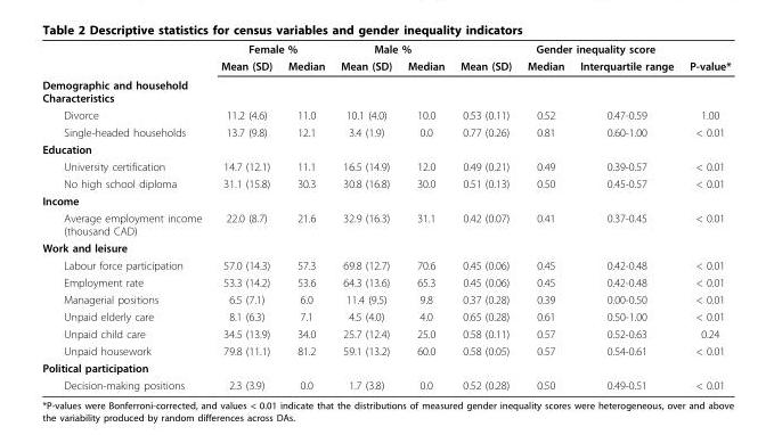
<table><thead><tr><td rowspan="2"></td><td colspan="2">Female %</td><td colspan="2">Male %</td><td colspan="4">Gender inequality score</td></tr><tr><td>Mean (SD)</td><td>Median</td><td>Mean (SD)</td><td>Median</td><td>Mean (SD)</td><td>Median</td><td>Interquartile range</td><td>P-value*</td></tr></thead><tbody><tr><td colspan="9">Demographic and household Characteristics</td></tr><tr><td>Divorce</td><td>11.2 (4.6)</td><td>11.0</td><td>10.1 (4.0)</td><td>10.0</td><td>0.53 (0.11)</td><td>0.52</td><td>0.47-0.59</td><td>1.00</td></tr><tr><td>Single-headed households</td><td>13.7 (9.8)</td><td>12.1</td><td>3.4 (1.9)</td><td>0.0</td><td>0.77 (0.26)</td><td>0.81</td><td>0.60-1.00</td><td>&lt; 0.01</td></tr><tr><td colspan="9">Education</td></tr><tr><td>University certification</td><td>14.7 (12.1)</td><td>11.1</td><td>16.5 (14.9)</td><td>12.0</td><td>0.49 (0.21)</td><td>0.49</td><td>0.39-0.57</td><td>&lt; 0.01</td></tr><tr><td>No high school diploma</td><td>31.1 (15.8)</td><td>30.3</td><td>30.8 (16.8)</td><td>30.0</td><td>0.51 (0.13)</td><td>0.50</td><td>0.45-0.57</td><td>&lt; 0.01</td></tr><tr><td colspan="9">Income</td></tr><tr><td>Average employment income (thousand CAD)</td><td>22.0 (8.7)</td><td>21.6</td><td>32.9 (16.3)</td><td>31.1</td><td>0.42 (0.07)</td><td>0.41</td><td>0.37-0.45</td><td>&lt; 0.01</td></tr><tr><td colspan="9">Work and leisure</td></tr><tr><td>Labour force participation</td><td>57.0 (14.3)</td><td>57.3</td><td>69.8 (12.7)</td><td>70.6</td><td>0.45 (0.06)</td><td>0.45</td><td>0.42-0.48</td><td>&lt; 0.01</td></tr><tr><td>Employment rate</td><td>53.3 (14.2)</td><td>53.6</td><td>64.3 (13.6)</td><td>65.3</td><td>0.45 (0.06)</td><td>0.45</td><td>0.42-0.48</td><td>&lt; 0.01</td></tr><tr><td>Managerial positions</td><td>6.5 (7.1)</td><td>6.0</td><td>11.4 (9.5)</td><td>9.8</td><td>0.37 (0.28)</td><td>0.39</td><td>0.00-0.50</td><td>&lt; 0.01</td></tr><tr><td>Unpaid elderly care</td><td>8.1 (6.3)</td><td>7.1</td><td>4.5 (4.0)</td><td>4.0</td><td>0.65 (0.28)</td><td>0.61</td><td>0.50-1.00</td><td>&lt; 0.01</td></tr><tr><td>Unpaid child care</td><td>34.5 (13.9)</td><td>34.0</td><td>25.7 (12.4)</td><td>25.0</td><td>0.58 (0.11)</td><td>0.57</td><td>0.52-0.63</td><td>0.24</td></tr><tr><td>Unpaid housework</td><td>79.8 (11.1)</td><td>81.2</td><td>59.1 (13.2)</td><td>60.0</td><td>0.58 (0.05)</td><td>0.57</td><td>0.54-0.61</td><td>&lt; 0.01</td></tr><tr><td colspan="9">Political participation</td></tr><tr><td>Decision-making positions</td><td>2.3 (3.9)</td><td>0.0</td><td>1.7 (3.8)</td><td>0.0</td><td>0.52 (0.28)</td><td>0.50</td><td>0.49-0.51</td><td>&lt; 0.01</td></tr></tbody></table>